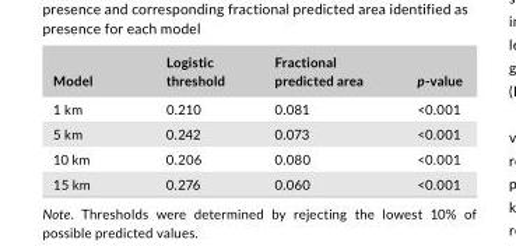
<table><thead><tr><td>Model</td><td>Logistic threshold</td><td>Fractional predicted area</td><td>p- value</td></tr></thead><tbody><tr><td>1 km</td><td>0.210</td><td>0.081</td><td>&lt;0.001</td></tr><tr><td>5 km</td><td>0.242</td><td>0.073</td><td>&lt;0.001</td></tr><tr><td>10 km</td><td>0.206</td><td>0.080</td><td>&lt;0.001</td></tr><tr><td>15 km</td><td>0.276</td><td>0.060</td><td>&lt;0.001</td></tr></tbody></table>